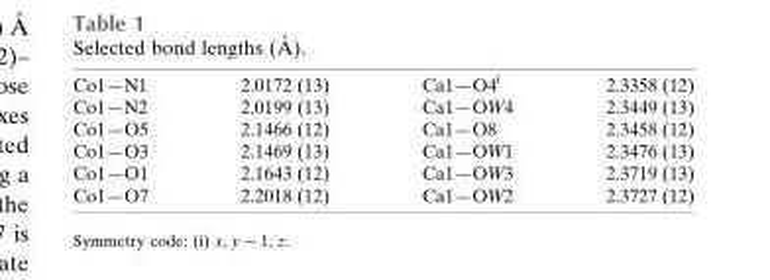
<table><tbody><tr><td>Co1—N1</td><td>2.0172 (13)</td><td>Ca1—O4<sup>i</sup></td><td>2.3358 (12)</td></tr><tr><td>Co1—N2</td><td>2.0199 (13)</td><td>Ca1—OW4</td><td>2.3449 (13)</td></tr><tr><td>Co1—O5</td><td>2.1466 (12)</td><td>Ca1—O8</td><td>2.3458 (12)</td></tr><tr><td>Co1—O3</td><td>2.1469 (13)</td><td>Ca1—OW1</td><td>2.3476 (13)</td></tr><tr><td>Co1—O1</td><td>2.1643 (12)</td><td>Ca1—OW3</td><td>2.3719 (13)</td></tr><tr><td>Co1—O7</td><td>2.2018 (12)</td><td>Ca1—OW2</td><td>2.3727 (12)</td></tr></tbody></table>